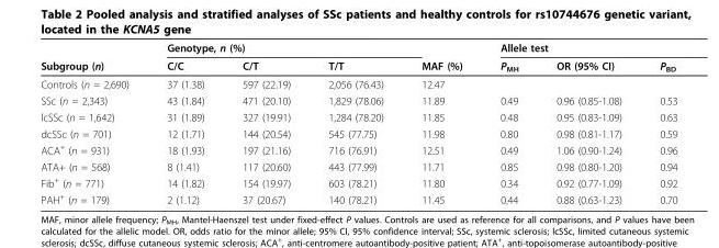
<table><thead><tr><td rowspan="2">Subgroup (n)</td><td colspan="3">Genotype, n (%)</td><td rowspan="2">MAF (%)</td><td colspan="3">Allele test</td></tr><tr><td>C/C</td><td>C/T</td><td>T/T</td><td>P<sub>MH</sub></td><td>OR (95% CI)</td><td>P<sub>BD</sub></td></tr></thead><tbody><tr><td>Controls (n = 2,690)</td><td>37 (1.38)</td><td>597 (22.19)</td><td>2,056 (76.43)</td><td>12.47</td><td></td><td></td><td></td></tr><tr><td>SSc (n = 2,343)</td><td>43 (1.84)</td><td>471 (20.10)</td><td>1,829 (78.06)</td><td>11.89</td><td>0.49</td><td>0.96 (0.85-1.08)</td><td>0.53</td></tr><tr><td>lcSSc (n = 1,642)</td><td>31 (1.89)</td><td>327 (19.91)</td><td>1,284 (78.20)</td><td>11.85</td><td>0.48</td><td>0.95 (0.83-1.09)</td><td>0.63</td></tr><tr><td>dcSSc (n = 701)</td><td>12 (1.71)</td><td>144 (20.54)</td><td>545 (77.75)</td><td>11.98</td><td>0.80</td><td>0.98 (0.81-1.17)</td><td>0.59</td></tr><tr><td>ACA<sup>+</sup> (n = 931)</td><td>18 (1.93)</td><td>197 (21.16)</td><td>716 (76.91)</td><td>12.51</td><td>0.49</td><td>1.06 (0.90-1.24)</td><td>0.96</td></tr><tr><td>ATA+ (n = 568)</td><td>8 (1.41)</td><td>117 (20.60)</td><td>443 (77.99)</td><td>11.71</td><td>0.85</td><td>0.98 (0.80-1.20)</td><td>0.94</td></tr><tr><td>Fib<sup>+</sup> (n = 771)</td><td>14 (1.82)</td><td>154 (19.97)</td><td>603 (78.21)</td><td>11.80</td><td>0.34</td><td>0.92 (0.77-1.09)</td><td>0.92</td></tr><tr><td>PAH<sup>+</sup> (n = 179)</td><td>2 (1.12)</td><td>37 (20.67)</td><td>140 (78.21)</td><td>11.45</td><td>0.44</td><td>0.88 (0.63-1.23)</td><td>0.70</td></tr></tbody></table>